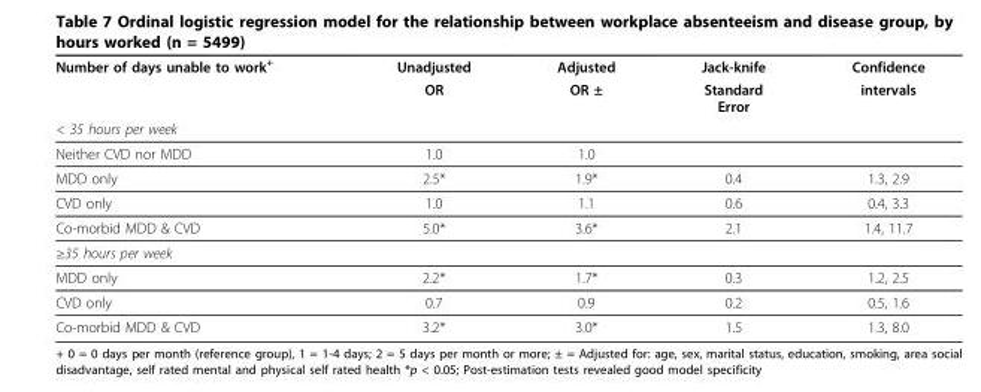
<table><thead><tr><td rowspan="3">Number of days unable to work+ &lt; 35 hours per week</td><td rowspan="3">Unadjusted OR</td><td rowspan="3">Adjusted OR ±</td><td rowspan="3">Jack-knife Standard Error</td><td rowspan="3">Confidence intervals</td></tr><tr></tr><tr></tr></thead><tbody><tr><td>Neither CVD nor MDD</td><td>1.0</td><td>1.0</td><td></td><td></td></tr><tr><td>MDD only</td><td>2.5*</td><td>1.9*</td><td>0.4</td><td>1.3, 2.9</td></tr><tr><td>CVD only</td><td>1.0</td><td>1.1</td><td>0.6</td><td>0.4, 3.3</td></tr><tr><td>Co-morbid MDD &amp; CVD</td><td>5.0*</td><td>3.6*</td><td>2.1</td><td>1.4, 11.7</td></tr><tr><td colspan="5">≥35 hours per week</td></tr><tr><td>MDD only</td><td>2.2*</td><td>1.7*</td><td>0.3</td><td>1.2, 2.5</td></tr><tr><td>CVD only</td><td>0.7</td><td>0.9</td><td>0.2</td><td>0.5, 1.6</td></tr><tr><td>Co-morbid MDD &amp; CVD</td><td>3.2*</td><td>3.0*</td><td>1.5</td><td>1.3, 8.0</td></tr></tbody></table>